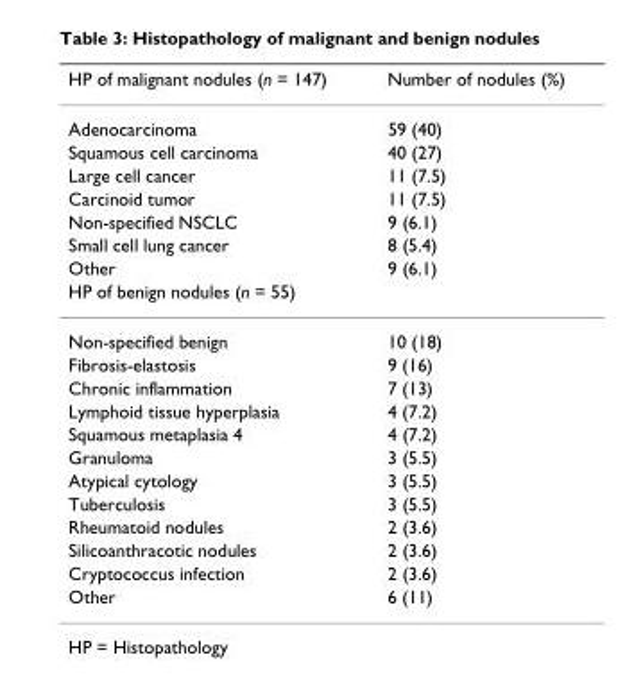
<table><thead><tr><td>HP of malignant nodules (n = 147)</td><td>Number of nodules (%)</td></tr></thead><tbody><tr><td>Adenocarcinoma</td><td>59 (40)</td></tr><tr><td>Squamous cell carcinoma</td><td>40 (27)</td></tr><tr><td>Large cell cancer</td><td>11 (7.5)</td></tr><tr><td>Carcinoid tumor</td><td>11 (7.5)</td></tr><tr><td>Non-specified NSCLC</td><td>9 (6.1)</td></tr><tr><td>Small cell lung cancer</td><td>8 (5.4)</td></tr><tr><td>Other</td><td>9 (6.1)</td></tr><tr><td colspan="2">HP of benign nodules (n = 55)</td></tr><tr><td>Non-specified benign</td><td>10 (18)</td></tr><tr><td>Fibrosis-elastosis</td><td>9 (16)</td></tr><tr><td>Chronic inflammation</td><td>7 (13)</td></tr><tr><td>Lymphoid tissue hyperplasia</td><td>4 (7.2)</td></tr><tr><td>Squamous metaplasia 4</td><td>4 (7.2)</td></tr><tr><td>Granuloma</td><td>3 (5.5)</td></tr><tr><td>Atypical cytology</td><td>3 (5.5)</td></tr><tr><td>Tuberculosis</td><td>3 (5.5)</td></tr><tr><td>Rheumatoid nodules</td><td>2 (3.6)</td></tr><tr><td>Silicoanthracotic nodules</td><td>2 (3.6)</td></tr><tr><td>Cryptococcus infection</td><td>2 (3.6)</td></tr><tr><td>Other</td><td>6 (11)</td></tr></tbody></table>